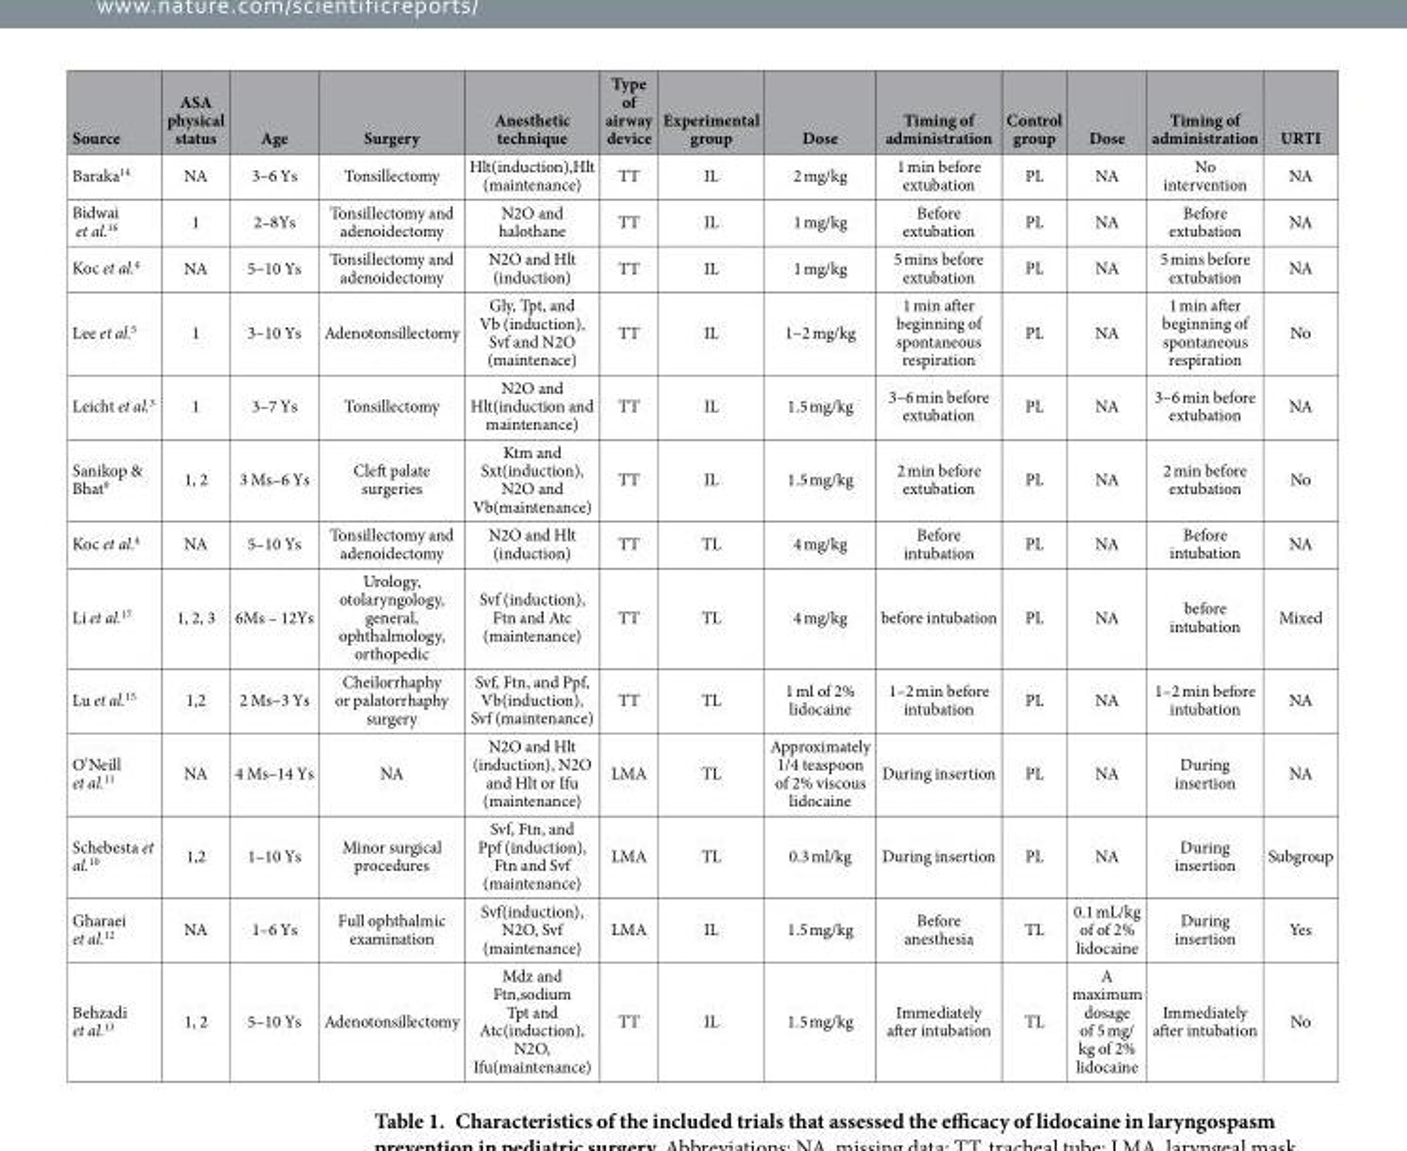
<table><thead><tr><td>Source</td><td>ASA physical status</td><td>Age</td><td>Surgery</td><td>Anesthetic technique</td><td>Type of airway device</td><td>Experimental group</td><td>Dose</td><td>Timing of administration</td><td>Control group</td><td>Dose</td><td>Timing of administration</td><td>URTI</td></tr></thead><tbody><tr><td>Baraka<sup>14</sup></td><td>NA</td><td>3–6 Ys</td><td>Tonsillectomy</td><td>Hlt(induction),Hlt (maintenance)</td><td>TT</td><td>IL</td><td>2 mg/kg</td><td>1 min before extubation</td><td>PL</td><td>NA</td><td>No intervention</td><td>NA</td></tr><tr><td>Bidwai et al.<sup>16</sup></td><td>1</td><td>2–8Ys</td><td>Tonsillectomy and adenoidectomy</td><td>N2O and halothane</td><td>TT</td><td>IL</td><td>1 mg/kg</td><td>Before extubation</td><td>PL</td><td>NA</td><td>Before extubation</td><td>NA</td></tr><tr><td>Koc et al.<sup>4</sup></td><td>NA</td><td>5–10 Ys</td><td>Tonsillectomy and adenoidectomy</td><td>N2O and Hlt (induction)</td><td>TT</td><td>IL</td><td>1 mg/kg</td><td>5 mins before extubation</td><td>PL</td><td>NA</td><td>5 mins before extubation</td><td>NA</td></tr><tr><td>Lee et al.<sup>5</sup></td><td>1</td><td>3–10 Ys</td><td>Adenotonsillectomy</td><td>Gly, Tpt, and Vb (induction), Svf and N2O (maintenace)</td><td>TT</td><td>IL</td><td>1–2 mg/kg</td><td>1 min after beginning of spontaneous respiration</td><td>PL</td><td>NA</td><td>1 min after beginning of spontaneous respiration</td><td>No</td></tr><tr><td>Leicht et al.<sup>3</sup></td><td>1</td><td>3–7 Ys</td><td>Tonsillectomy</td><td>N2O and Hlt(induction and maintenance)</td><td>TT</td><td>IL</td><td>1.5 mg/kg</td><td>3–6 min before extubation</td><td>PL</td><td>NA</td><td>3–6 min before extubation</td><td>NA</td></tr><tr><td>Sanikop &amp; Bhat<sup>9</sup></td><td>1, 2</td><td>3 Ms–6 Ys</td><td>Cleft palate surgeries</td><td>Ktm and Sxt(induction), N2O and Vb(maintenance)</td><td>TT</td><td>IL</td><td>1.5 mg/kg</td><td>2 min before extubation</td><td>PL</td><td>NA</td><td>2 min before extubation</td><td>No</td></tr><tr><td>Koc et al.<sup>4</sup></td><td>NA</td><td>5–10 Ys</td><td>Tonsillectomy and adenoidectomy</td><td>N2O and Hlt (induction)</td><td>TT</td><td>TL</td><td>4 mg/kg</td><td>Before intubation</td><td>PL</td><td>NA</td><td>Before intubation</td><td>NA</td></tr><tr><td>Li et al.<sup>17</sup></td><td>1, 2, 3</td><td>6Ms – 12Ys</td><td>Urology, otolaryngology, general, ophthalmology, orthopedic</td><td>Svf (induction), Ftn and Atc (maintenance)</td><td>TT</td><td>TL</td><td>4 mg/kg</td><td>before intubation</td><td>PL</td><td>NA</td><td>before intubation</td><td>Mixed</td></tr><tr><td>Lu et al.<sup>15</sup></td><td>1,2</td><td>2 Ms–3 Ys</td><td>Cheilorrhaphy or palatorrhaphy surgery</td><td>Svf, Ftn, and Ppf, Vb(induction), Svf (maintenance)</td><td>TT</td><td>TL</td><td>1 ml of 2% lidocaine</td><td>1–2 min before intubation</td><td>PL</td><td>NA</td><td>1–2 min before intubation</td><td>NA</td></tr><tr><td>O’Neill et al.<sup>11</sup></td><td>NA</td><td>4 Ms–14 Ys</td><td>NA</td><td>N2O and Hlt (induction), N2O and Hlt or Ifu (maintenance)</td><td>LMA</td><td>TL</td><td>Approximately 1/4 teaspoon of 2% viscous lidocaine</td><td>During insertion</td><td>PL</td><td>NA</td><td>During insertion</td><td>NA</td></tr><tr><td>Schebesta et al.<sup>10</sup></td><td>1,2</td><td>1–10 Ys</td><td>Minor surgical procedures</td><td>Svf, Ftn, and Ppf (induction), Ftn and Svf (maintenance)</td><td>LMA</td><td>TL</td><td>0.3 ml/kg</td><td>During insertion</td><td>PL</td><td>NA</td><td>During insertion</td><td>Subgroup</td></tr><tr><td>Gharaei et al.<sup>12</sup></td><td>NA</td><td>1–6 Ys</td><td>Full ophthalmic examination</td><td>Svf(induction), N2O, Svf (maintenance)</td><td>LMA</td><td>IL</td><td>1.5 mg/kg</td><td>Before anesthesia</td><td>TL</td><td>0.1 mL/kg of of 2% lidocaine</td><td>During insertion</td><td>Yes</td></tr><tr><td>Behzadi et al.<sup>13</sup></td><td>1, 2</td><td>5–10 Ys</td><td>Adenotonsillectomy</td><td>Mdz and Ftn,sodium Tpt and Atc(induction), N2O, Ifu(maintenance)</td><td>TT</td><td>IL</td><td>1.5 mg/kg</td><td>Immediately after intubation</td><td>TL</td><td>A maximum dosage of 5 mg/ kg of 2% lidocaine</td><td>Immediately after intubation</td><td>No</td></tr></tbody></table>